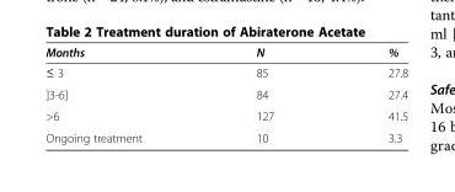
<table><thead><tr><td>Months</td><td>N</td><td>%</td></tr></thead><tbody><tr><td>≤ 3</td><td>85</td><td>27.8</td></tr><tr><td>]3-6]</td><td>84</td><td>27.4</td></tr><tr><td>&gt;6</td><td>127</td><td>41.5</td></tr><tr><td>Ongoing treatment</td><td>10</td><td>3.3</td></tr></tbody></table>